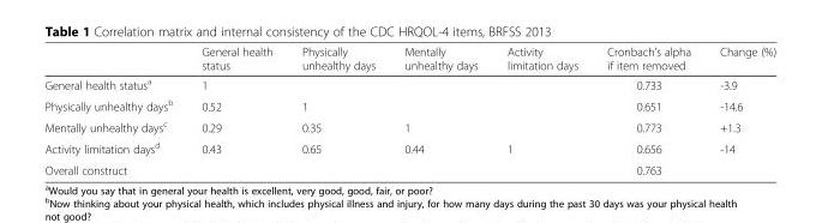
<table><thead><tr><td></td><td>General health status</td><td>Physically unhealthy days</td><td>Mentally unhealthy days</td><td>Activity limitation days</td><td>Cronbach&#x27;s alpha if item removed</td><td>Change (%)</td></tr></thead><tbody><tr><td>General health status<sup>a</sup></td><td>1</td><td></td><td></td><td></td><td>0.733</td><td>-3.9</td></tr><tr><td>Physically unhealthy days<sup>b</sup></td><td>0.52</td><td>1</td><td></td><td></td><td>0.651</td><td>-14.6</td></tr><tr><td>Mentally unhealthy days<sup>c</sup></td><td>0.29</td><td>0.35</td><td>1</td><td></td><td>0.773</td><td>+1.3</td></tr><tr><td>Activity limitation days<sup>d</sup></td><td>0.43</td><td>0.65</td><td>0.44</td><td>1</td><td>0.656</td><td>-14</td></tr><tr><td>Overall construct</td><td></td><td></td><td></td><td></td><td>0.763</td><td></td></tr></tbody></table>